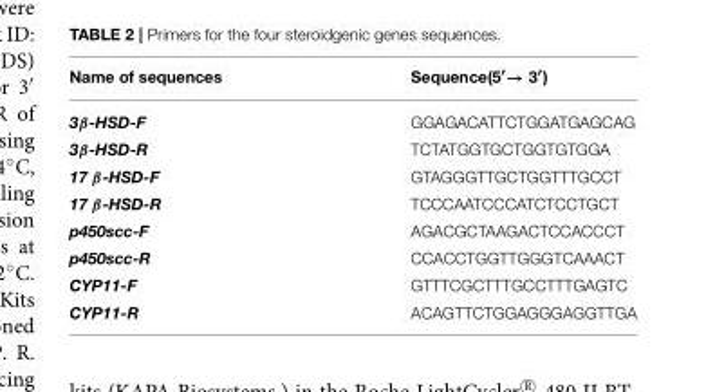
<table><thead><tr><td>Name of sequences</td><td>Sequence(5<sup>′</sup>→ 3<sup>′</sup>)</td></tr></thead><tbody><tr><td>3β-HSD-F</td><td>GGAGACATTCTGGATGAGCAG</td></tr><tr><td>3β-HSD-R</td><td>TCTATGGTGCTGGTGTGGA</td></tr><tr><td>17 β-HSD-F</td><td>GTAGGGTTGCTGGTTTGCCT</td></tr><tr><td>17 β-HSD-R</td><td>TCCCAATCCCATCTCCTGCT</td></tr><tr><td>p450scc-F</td><td>AGACGCTAAGACTCCACCCT</td></tr><tr><td>p450scc-R</td><td>CCACCTGGTTGGGTCAAACT</td></tr><tr><td>CYP11-F</td><td>GTTTCGCTTTGCCTTTGAGTC</td></tr><tr><td>CYP11-R</td><td>ACAGTTCTGGAGGGAGGTTGA</td></tr></tbody></table>